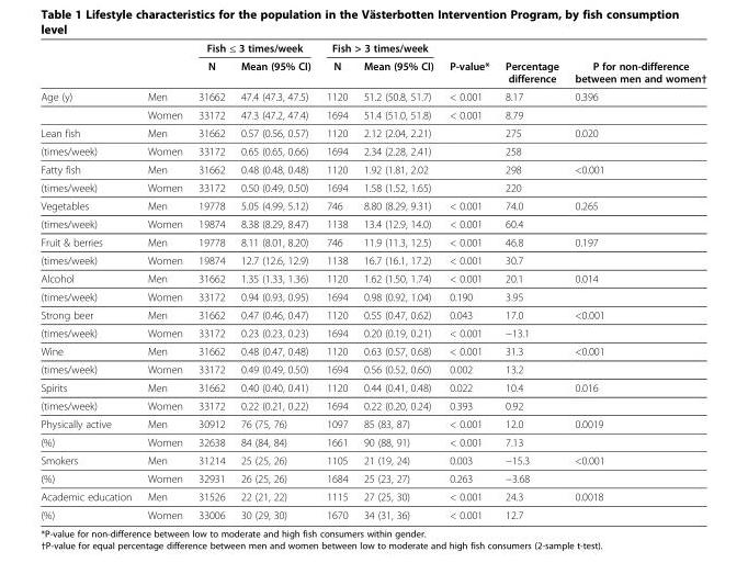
<table><thead><tr><td rowspan="2"></td><td rowspan="2"></td><td colspan="2">Fish ≤ 3 times/week</td><td colspan="2">Fish &gt; 3 times/week</td><td rowspan="2">P-value*</td><td rowspan="2">Percentage difference</td><td rowspan="2">P for non-difference between men and women†</td></tr><tr><td>N</td><td>Mean (95% CI)</td><td>N</td><td>Mean (95% CI)</td></tr></thead><tbody><tr><td rowspan="2">Age (y)</td><td>Men</td><td>31662</td><td>47.4 (47.3, 47.5)</td><td>1120</td><td>51.2 (50.8, 51.7)</td><td>&lt; 0.001</td><td>8.17</td><td>0.396</td></tr><tr><td>Women</td><td>33172</td><td>47.3 (47.2, 47.4)</td><td>1694</td><td>51.4 (51.0, 51.8)</td><td>&lt; 0.001</td><td>8.79</td><td></td></tr><tr><td>Lean fish</td><td>Men</td><td>31662</td><td>0.57 (0.56, 0.57)</td><td>1120</td><td>2.12 (2.04, 2.21)</td><td></td><td>275</td><td>0.020</td></tr><tr><td>(times/week)</td><td>Women</td><td>33172</td><td>0.65 (0.65, 0.66)</td><td>1694</td><td>2.34 (2.28, 2.41)</td><td></td><td>258</td><td></td></tr><tr><td>Fatty fish</td><td>Men</td><td>31662</td><td>0.48 (0.48, 0.48)</td><td>1120</td><td>1.92 (1.81, 2.02</td><td></td><td>298</td><td>&lt;0.001</td></tr><tr><td>(times/week)</td><td>Women</td><td>33172</td><td>0.50 (0.49, 0.50)</td><td>1694</td><td>1.58 (1.52, 1.65)</td><td></td><td>220</td><td></td></tr><tr><td>Vegetables</td><td>Men</td><td>19778</td><td>5.05 (4.99, 5.12)</td><td>746</td><td>8.80 (8.29, 9.31)</td><td>&lt; 0.001</td><td>74.0</td><td>0.265</td></tr><tr><td>(times/week)</td><td>Women</td><td>19874</td><td>8.38 (8.29, 8.47)</td><td>1138</td><td>13.4 (12.9, 14.0)</td><td>&lt; 0.001</td><td>60.4</td><td></td></tr><tr><td>Fruit &amp; berries</td><td>Men</td><td>19778</td><td>8.11 (8.01, 8.20)</td><td>746</td><td>11.9 (11.3, 12.5)</td><td>&lt; 0.001</td><td>46.8</td><td>0.197</td></tr><tr><td>(times/week)</td><td>Women</td><td>19874</td><td>12.7 (12.6, 12.9)</td><td>1138</td><td>16.7 (16.1, 17.2)</td><td>&lt; 0.001</td><td>30.7</td><td></td></tr><tr><td>Alcohol</td><td>Men</td><td>31662</td><td>1.35 (1.33, 1.36)</td><td>1120</td><td>1.62 (1.50, 1.74)</td><td>&lt; 0.001</td><td>20.1</td><td>0.014</td></tr><tr><td>(times/week)</td><td>Women</td><td>33172</td><td>0.94 (0.93, 0.95)</td><td>1694</td><td>0.98 (0.92, 1.04)</td><td>0.190</td><td>3.95</td><td></td></tr><tr><td>Strong beer</td><td>Men</td><td>31662</td><td>0.47 (0.46, 0.47)</td><td>1120</td><td>0.55 (0.47, 0.62)</td><td>0.043</td><td>17.0</td><td>&lt;0.001</td></tr><tr><td>(times/week)</td><td>Women</td><td>33172</td><td>0.23 (0.23, 0.23)</td><td>1694</td><td>0.20 (0.19, 0.21)</td><td>&lt; 0.001</td><td>−13.1</td><td></td></tr><tr><td>Wine</td><td>Men</td><td>31662</td><td>0.48 (0.47, 0.48)</td><td>1120</td><td>0.63 (0.57, 0.68)</td><td>&lt; 0.001</td><td>31.3</td><td>&lt;0.001</td></tr><tr><td>(times/week)</td><td>Women</td><td>33172</td><td>0.49 (0.49, 0.50)</td><td>1694</td><td>0.56 (0.52, 0.60)</td><td>0.002</td><td>13.2</td><td></td></tr><tr><td>Spirits</td><td>Men</td><td>31662</td><td>0.40 (0.40, 0.41)</td><td>1120</td><td>0.44 (0.41, 0.48)</td><td>0.022</td><td>10.4</td><td>0.016</td></tr><tr><td>(times/week)</td><td>Women</td><td>33172</td><td>0.22 (0.21, 0.22)</td><td>1694</td><td>0.22 (0.20, 0.24)</td><td>0.393</td><td>0.92</td><td></td></tr><tr><td>Physically active</td><td>Men</td><td>30912</td><td>76 (75, 76)</td><td>1097</td><td>85 (83, 87)</td><td>&lt; 0.001</td><td>12.0</td><td>0.0019</td></tr><tr><td>(%)</td><td>Women</td><td>32638</td><td>84 (84, 84)</td><td>1661</td><td>90 (88, 91)</td><td>&lt; 0.001</td><td>7.13</td><td></td></tr><tr><td>Smokers</td><td>Men</td><td>31214</td><td>25 (25, 26)</td><td>1105</td><td>21 (19, 24)</td><td>0.003</td><td>−15.3</td><td>&lt;0.001</td></tr><tr><td>(%)</td><td>Women</td><td>32931</td><td>26 (25, 26)</td><td>1684</td><td>25 (23, 27)</td><td>0.263</td><td>−3.68</td><td></td></tr><tr><td>Academic education</td><td>Men</td><td>31526</td><td>22 (21, 22)</td><td>1115</td><td>27 (25, 30)</td><td>&lt; 0.001</td><td>24.3</td><td>0.0018</td></tr><tr><td>(%)</td><td>Women</td><td>33006</td><td>30 (29, 30)</td><td>1670</td><td>34 (31, 36)</td><td>&lt; 0.001</td><td>12.7</td><td></td></tr></tbody></table>